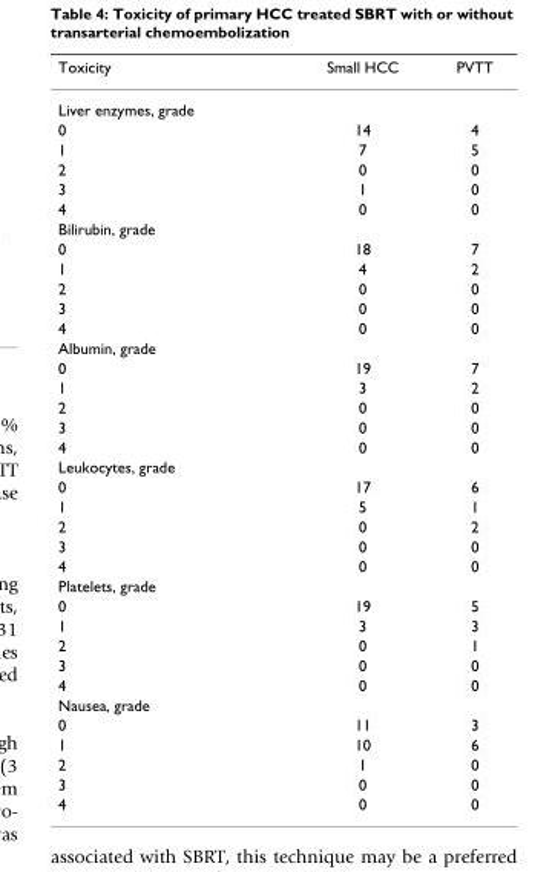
<table><thead><tr><td>Toxicity</td><td>Small HCC</td><td>PVTT</td></tr></thead><tbody><tr><td colspan="3">Liver enzymes, grade</td></tr><tr><td>0</td><td>14</td><td>4</td></tr><tr><td>1</td><td>7</td><td>5</td></tr><tr><td>2</td><td>0</td><td>0</td></tr><tr><td>3</td><td>1</td><td>0</td></tr><tr><td>4</td><td>0</td><td>0</td></tr><tr><td colspan="3">Bilirubin, grade</td></tr><tr><td>0</td><td>18</td><td>7</td></tr><tr><td>1</td><td>4</td><td>2</td></tr><tr><td>2</td><td>0</td><td>0</td></tr><tr><td>3</td><td>0</td><td>0</td></tr><tr><td>4</td><td>0</td><td>0</td></tr><tr><td colspan="3">Albumin, grade</td></tr><tr><td>0</td><td>19</td><td>7</td></tr><tr><td>1</td><td>3</td><td>2</td></tr><tr><td>2</td><td>0</td><td>0</td></tr><tr><td>3</td><td>0</td><td>0</td></tr><tr><td>4</td><td>0</td><td>0</td></tr><tr><td colspan="3">Leukocytes, grade</td></tr><tr><td>0</td><td>17</td><td>6</td></tr><tr><td>1</td><td>5</td><td>1</td></tr><tr><td>2</td><td>0</td><td>2</td></tr><tr><td>3</td><td>0</td><td>0</td></tr><tr><td>4</td><td>0</td><td>0</td></tr><tr><td colspan="3">Platelets, grade</td></tr><tr><td>0</td><td>19</td><td>5</td></tr><tr><td>1</td><td>3</td><td>3</td></tr><tr><td>2</td><td>0</td><td>1</td></tr><tr><td>3</td><td>0</td><td>0</td></tr><tr><td>4</td><td>0</td><td>0</td></tr><tr><td colspan="3">Nausea, grade</td></tr><tr><td>0</td><td>11</td><td>3</td></tr><tr><td>1</td><td>10</td><td>6</td></tr><tr><td>2</td><td>1</td><td>0</td></tr><tr><td>3</td><td>0</td><td>0</td></tr><tr><td>4</td><td>0</td><td>0</td></tr></tbody></table>